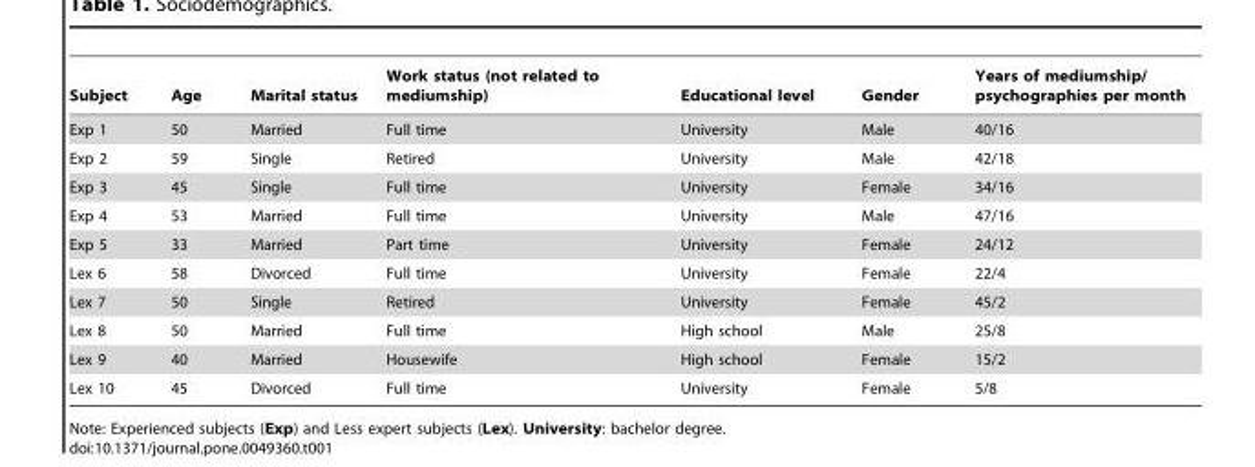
<table><thead><tr><td>Subject</td><td>Age</td><td>Marital status</td><td>Work status (not related to mediumship)</td><td>Educational level</td><td>Gender</td><td>Years of mediumship/ psychographies per month</td></tr></thead><tbody><tr><td>Exp 1</td><td>50</td><td>Married</td><td>Full time</td><td>University</td><td>Male</td><td>40/16</td></tr><tr><td>Exp 2</td><td>59</td><td>Single</td><td>Retired</td><td>University</td><td>Male</td><td>42/18</td></tr><tr><td>Exp 3</td><td>45</td><td>Single</td><td>Full time</td><td>University</td><td>Female</td><td>34/16</td></tr><tr><td>Exp 4</td><td>53</td><td>Married</td><td>Full time</td><td>University</td><td>Male</td><td>47/16</td></tr><tr><td>Exp 5</td><td>33</td><td>Married</td><td>Part time</td><td>University</td><td>Female</td><td>24/12</td></tr><tr><td>Lex 6</td><td>58</td><td>Divorced</td><td>Full time</td><td>University</td><td>Female</td><td>22/4</td></tr><tr><td>Lex 7</td><td>50</td><td>Single</td><td>Retired</td><td>University</td><td>Female</td><td>45/2</td></tr><tr><td>Lex 8</td><td>50</td><td>Married</td><td>Full time</td><td>High school</td><td>Male</td><td>25/8</td></tr><tr><td>Lex 9</td><td>40</td><td>Married</td><td>Housewife</td><td>High school</td><td>Female</td><td>15/2</td></tr><tr><td>Lex 10</td><td>45</td><td>Divorced</td><td>Full time</td><td>University</td><td>Female</td><td>5/8</td></tr></tbody></table>